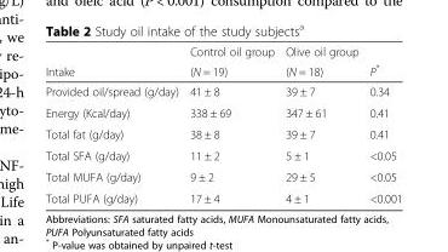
<table><thead><tr><td rowspan="2">Intake</td><td rowspan="2">Control oil group (N = 19)</td><td rowspan="2">Olive oil group (N = 18)</td><td rowspan="2">P*</td></tr><tr></tr></thead><tbody><tr><td>Provided oil/spread (g/day)</td><td>41 ± 8</td><td>39 ± 7</td><td>0.34</td></tr><tr><td>Energy (Kcal/day)</td><td>338 ± 69</td><td>347 ± 61</td><td>0.41</td></tr><tr><td>Total fat (g/day)</td><td>38 ± 8</td><td>39 ± 7</td><td>0.41</td></tr><tr><td>Total SFA (g/day)</td><td>11 ± 2</td><td>5 ± 1</td><td>&lt;0.05</td></tr><tr><td>Total MUFA (g/day)</td><td>9 ± 2</td><td>29 ± 5</td><td>&lt;0.05</td></tr><tr><td>Total PUFA (g/day)</td><td>17 ± 4</td><td>4 ± 1</td><td>&lt;0.001</td></tr></tbody></table>